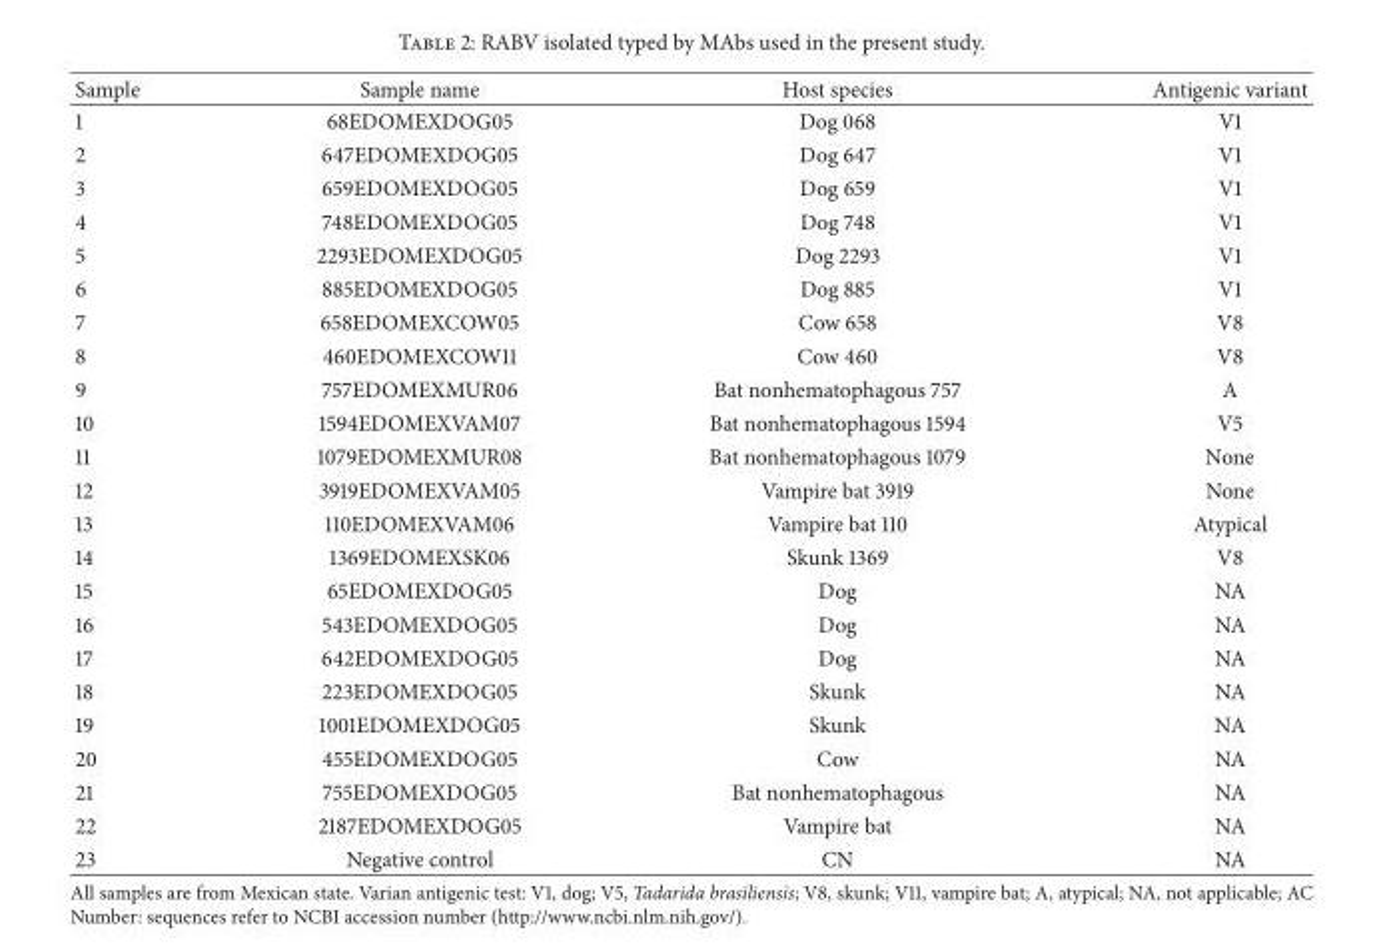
<table><thead><tr><td>Sample</td><td>Sample name</td><td>Host species</td><td>Antigenic variant</td></tr></thead><tbody><tr><td>1</td><td>68EDOMEXDOG05</td><td>Dog 068</td><td>V1</td></tr><tr><td>2</td><td>647EDOMEXDOG05</td><td>Dog 647</td><td>V1</td></tr><tr><td>3</td><td>659EDOMEXDOG05</td><td>Dog 659</td><td>V1</td></tr><tr><td>4</td><td>748EDOMEXDOG05</td><td>Dog 748</td><td>V1</td></tr><tr><td>5</td><td>2293EDOMEXDOG05</td><td>Dog 2293</td><td>V1</td></tr><tr><td>6</td><td>885EDOMEXDOG05</td><td>Dog 885</td><td>V1</td></tr><tr><td>7</td><td>658EDOMEXCOW05</td><td>Cow 658</td><td>V8</td></tr><tr><td>8</td><td>460EDOMEXCOW11</td><td>Cow 460</td><td>V8</td></tr><tr><td>9</td><td>757EDOMEXMUR06</td><td>Bat nonhematophagous 757</td><td>A</td></tr><tr><td>10</td><td>1594EDOMEXVAM07</td><td>Bat nonhematophagous 1594</td><td>V5</td></tr><tr><td>11</td><td>1079EDOMEXMUR08</td><td>Bat nonhematophagous 1079</td><td>None</td></tr><tr><td>12</td><td>3919EDOMEXVAM05</td><td>Vampire bat 3919</td><td>None</td></tr><tr><td>13</td><td>110EDOMEXVAM06</td><td>Vampire bat 110</td><td>Atypical</td></tr><tr><td>14</td><td>1369EDOMEXSK06</td><td>Skunk 1369</td><td>V8</td></tr><tr><td>15</td><td>65EDOMEXDOG05</td><td>Dog</td><td>NA</td></tr><tr><td>16</td><td>543EDOMEXDOG05</td><td>Dog</td><td>NA</td></tr><tr><td>17</td><td>642EDOMEXDOG05</td><td>Dog</td><td>NA</td></tr><tr><td>18</td><td>223EDOMEXDOG05</td><td>Skunk</td><td>NA</td></tr><tr><td>19</td><td>1001EDOMEXDOG05</td><td>Skunk</td><td>NA</td></tr><tr><td>20</td><td>455EDOMEXDOG05</td><td>Cow</td><td>NA</td></tr><tr><td>21</td><td>755EDOMEXDOG05</td><td>Bat nonhematophagous</td><td>NA</td></tr><tr><td>22</td><td>2187EDOMEXDOG05</td><td>Vampire bat</td><td>NA</td></tr><tr><td>23</td><td>Negative control</td><td>CN</td><td>NA</td></tr></tbody></table>